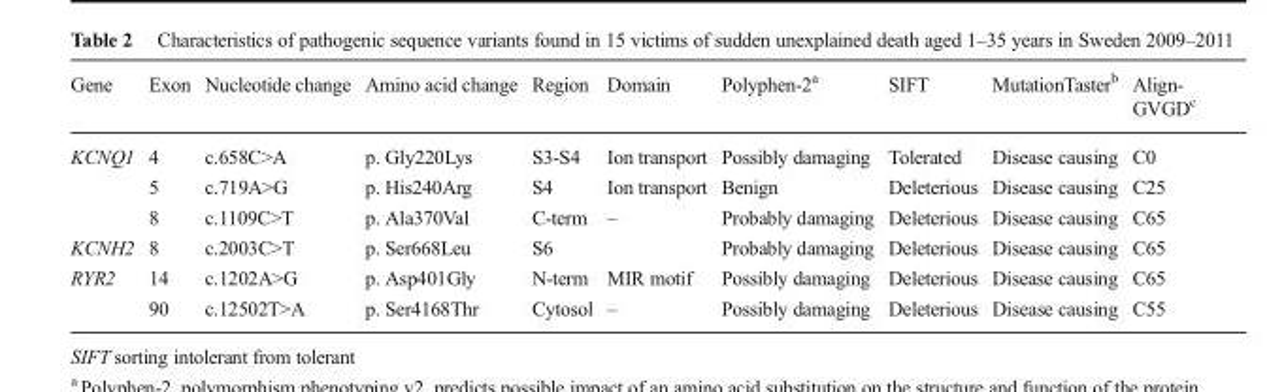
<table><thead><tr><td>Gene</td><td>Exon</td><td>Nucleotide change</td><td>Amino acid change</td><td>Region</td><td>Domain</td><td>Polyphen-2a</td><td>SIFT</td><td>MutationTasterb</td><td>Align- GVGDc</td></tr></thead><tbody><tr><td rowspan="3">KCNQ1</td><td>4</td><td>c.658C&gt;A</td><td>p. Gly220Lys</td><td>S3-S4</td><td>Ion transport</td><td>Possibly damaging</td><td>Tolerated</td><td>Disease causing</td><td>C0</td></tr><tr><td>5</td><td>c.719A&gt;G</td><td>p. His240Arg</td><td>S4</td><td>Ion transport</td><td>Benign</td><td>Deleterious</td><td>Disease causing</td><td>C25</td></tr><tr><td>8</td><td>c.1109C&gt;T</td><td>p. Ala370Val</td><td>C-term</td><td>–</td><td>Probably damaging</td><td>Deleterious</td><td>Disease causing</td><td>C65</td></tr><tr><td>KCNH2</td><td>8</td><td>c.2003C&gt;T</td><td>p. Ser668Leu</td><td>S6</td><td></td><td>Probably damaging</td><td>Deleterious</td><td>Disease causing</td><td>C65</td></tr><tr><td rowspan="2">RYR2</td><td>14</td><td>c.1202A&gt;G</td><td>p. Asp401Gly</td><td>N-term</td><td>MIR motif</td><td>Possibly damaging</td><td>Deleterious</td><td>Disease causing</td><td>C65</td></tr><tr><td>90</td><td>c.12502T&gt;A</td><td>p. Ser4168Thr</td><td>Cytosol</td><td>–</td><td>Possibly damaging</td><td>Deleterious</td><td>Disease causing</td><td>C55</td></tr></tbody></table>